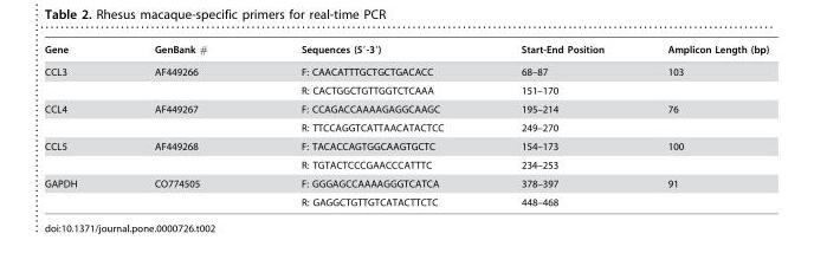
<table><thead><tr><td>Gene</td><td>GenBank #</td><td>Sequences (5′-3′)</td><td>Start-End Position</td><td>Amplicon Length (bp)</td></tr></thead><tbody><tr><td rowspan="2">CCL3</td><td>AF449266</td><td>F: CAACATTTGCTGCTGACACC</td><td>68–87</td><td>103</td></tr><tr><td></td><td>R: CACTGGCTGTTGGTCTCAAA</td><td>151–170</td><td></td></tr><tr><td rowspan="2">CCL4</td><td>AF449267</td><td>F: CCAGACCAAAAGAGGCAAGC</td><td>195–214</td><td>76</td></tr><tr><td></td><td>R: TTCCAGGTCATTAACATACTCC</td><td>249–270</td><td></td></tr><tr><td rowspan="2">CCL5</td><td>AF449268</td><td>F: TACACCAGTGGCAAGTGCTC</td><td>154–173</td><td>100</td></tr><tr><td></td><td>R: TGTACTCCCGAACCCATTTC</td><td>234–253</td><td></td></tr><tr><td rowspan="2">GAPDH</td><td>CO774505</td><td>F: GGGAGCCAAAAGGGTCATCA</td><td>378–397</td><td>91</td></tr><tr><td></td><td>R: GAGGCTGTTGTCATACTTCTC</td><td>448–468</td><td></td></tr></tbody></table>